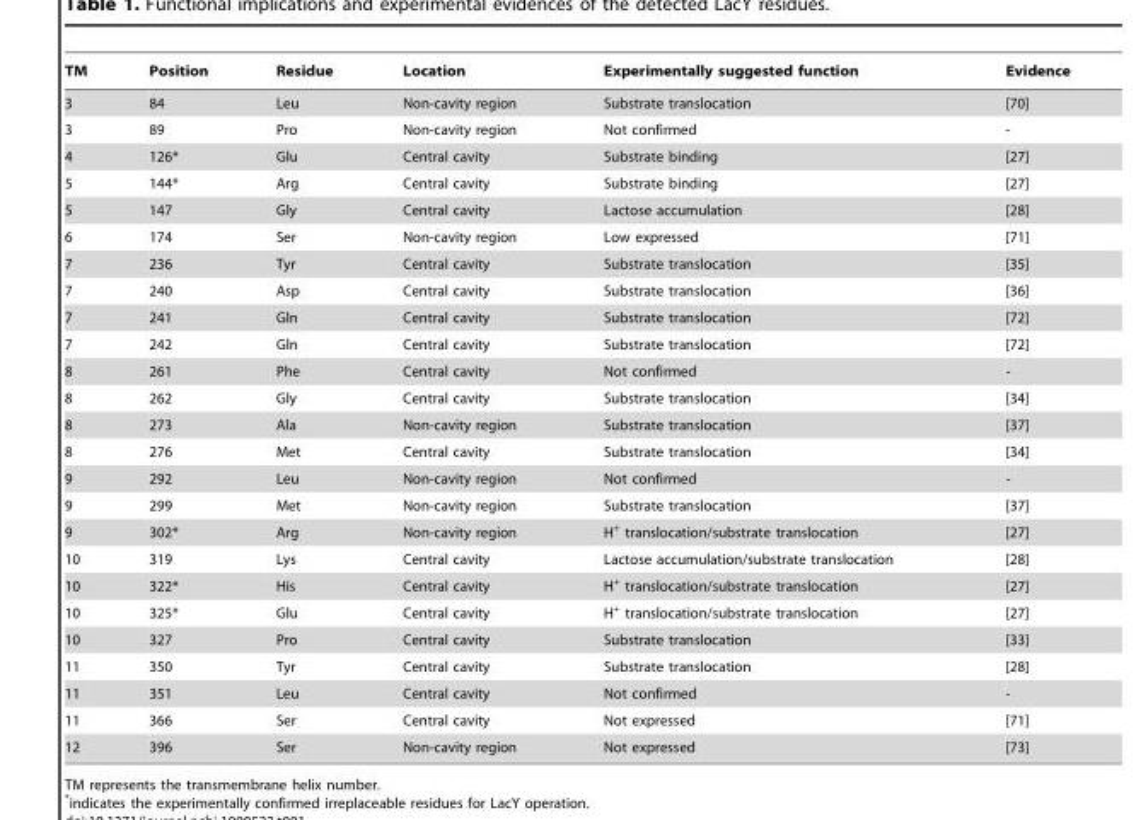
<table><thead><tr><td>TM</td><td>Position</td><td>Residue</td><td>Location</td><td>Experimentally suggested function</td><td>Evidence</td></tr></thead><tbody><tr><td>3</td><td>84</td><td>Leu</td><td>Non-cavity region</td><td>Substrate translocation</td><td>[70]</td></tr><tr><td>3</td><td>89</td><td>Pro</td><td>Non-cavity region</td><td>Not confirmed</td><td>-</td></tr><tr><td>4</td><td>126*</td><td>Glu</td><td>Central cavity</td><td>Substrate binding</td><td>[27]</td></tr><tr><td>5</td><td>144*</td><td>Arg</td><td>Central cavity</td><td>Substrate binding</td><td>[27]</td></tr><tr><td>5</td><td>147</td><td>Gly</td><td>Central cavity</td><td>Lactose accumulation</td><td>[28]</td></tr><tr><td>6</td><td>174</td><td>Ser</td><td>Non-cavity region</td><td>Low expressed</td><td>[71]</td></tr><tr><td>7</td><td>236</td><td>Tyr</td><td>Central cavity</td><td>Substrate translocation</td><td>[35]</td></tr><tr><td>7</td><td>240</td><td>Asp</td><td>Central cavity</td><td>Substrate translocation</td><td>[36]</td></tr><tr><td>7</td><td>241</td><td>Gln</td><td>Central cavity</td><td>Substrate translocation</td><td>[72]</td></tr><tr><td>7</td><td>242</td><td>Gln</td><td>Central cavity</td><td>Substrate translocation</td><td>[72]</td></tr><tr><td>8</td><td>261</td><td>Phe</td><td>Central cavity</td><td>Not confirmed</td><td>-</td></tr><tr><td>8</td><td>262</td><td>Gly</td><td>Central cavity</td><td>Substrate translocation</td><td>[34]</td></tr><tr><td>8</td><td>273</td><td>Ala</td><td>Non-cavity region</td><td>Substrate translocation</td><td>[37]</td></tr><tr><td>8</td><td>276</td><td>Met</td><td>Central cavity</td><td>Substrate translocation</td><td>[34]</td></tr><tr><td>9</td><td>292</td><td>Leu</td><td>Non-cavity region</td><td>Not confirmed</td><td>-</td></tr><tr><td>9</td><td>299</td><td>Met</td><td>Non-cavity region</td><td>Substrate translocation</td><td>[37]</td></tr><tr><td>9</td><td>302*</td><td>Arg</td><td>Non-cavity region</td><td>H<sup>+</sup> translocation/substrate translocation</td><td>[27]</td></tr><tr><td>10</td><td>319</td><td>Lys</td><td>Central cavity</td><td>Lactose accumulation/substrate translocation</td><td>[28]</td></tr><tr><td>10</td><td>322*</td><td>His</td><td>Central cavity</td><td>H<sup>+</sup> translocation/substrate translocation</td><td>[27]</td></tr><tr><td>10</td><td>325*</td><td>Glu</td><td>Central cavity</td><td>H<sup>+</sup> translocation/substrate translocation</td><td>[27]</td></tr><tr><td>10</td><td>327</td><td>Pro</td><td>Central cavity</td><td>Substrate translocation</td><td>[33]</td></tr><tr><td>11</td><td>350</td><td>Tyr</td><td>Central cavity</td><td>Substrate translocation</td><td>[28]</td></tr><tr><td>11</td><td>351</td><td>Leu</td><td>Central cavity</td><td>Not confirmed</td><td>-</td></tr><tr><td>11</td><td>366</td><td>Ser</td><td>Central cavity</td><td>Not expressed</td><td>[71]</td></tr><tr><td>12</td><td>396</td><td>Ser</td><td>Non-cavity region</td><td>Not expressed</td><td>[73]</td></tr></tbody></table>